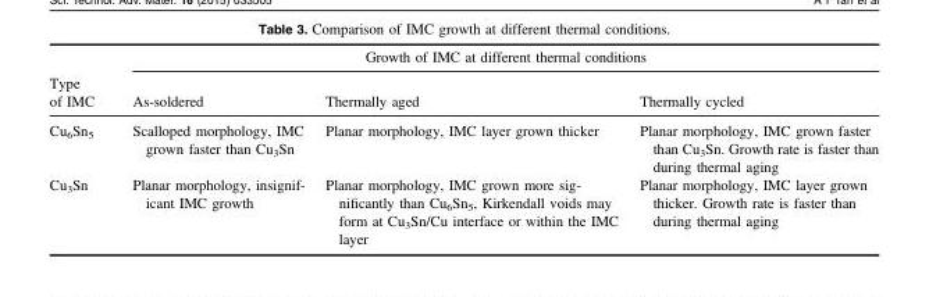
<table><thead><tr><td rowspan="2">Type of IMC</td><td colspan="3">Growth of IMC at different thermal conditions</td></tr><tr><td>As-soldered</td><td>Thermally aged</td><td>Thermally cycled</td></tr></thead><tbody><tr><td>Cu<sub>6</sub>Sn<sub>5</sub></td><td>Scalloped morphology, IMC grown faster than Cu<sub>3</sub>Sn</td><td>Planar morphology, IMC layer grown thicker</td><td>Planar morphology, IMC grown faster than Cu<sub>3</sub>Sn. Growth rate is faster than during thermal aging</td></tr><tr><td>Cu<sub>3</sub>Sn</td><td>Planar morphology, insignif- icant IMC growth</td><td>Planar morphology, IMC grown more sig- nificantly than Cu6Sn5, Kirkendall voids may form at Cu3Sn/Cu interface or within the IMC layer</td><td>Planar morphology, IMC layer grown thicker. Growth rate is faster than during thermal aging</td></tr></tbody></table>